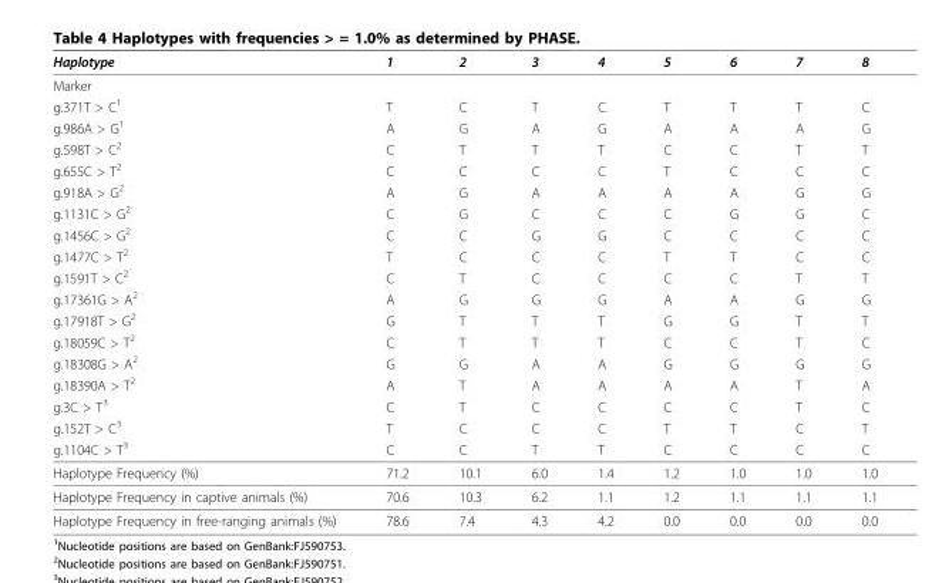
<table><thead><tr><td>Haplotype</td><td>1</td><td>2</td><td>3</td><td>4</td><td>5</td><td>6</td><td>7</td><td>8</td></tr></thead><tbody><tr><td colspan="9">Marker</td></tr><tr><td>g.371T &gt; C<sup>1</sup></td><td>T</td><td>C</td><td>T</td><td>C</td><td>T</td><td>T</td><td>T</td><td>C</td></tr><tr><td>g.986A &gt; G<sup>1</sup></td><td>A</td><td>G</td><td>A</td><td>G</td><td>A</td><td>A</td><td>A</td><td>G</td></tr><tr><td>g.598T &gt; C<sup>2</sup></td><td>C</td><td>T</td><td>T</td><td>T</td><td>C</td><td>C</td><td>T</td><td>T</td></tr><tr><td>g.655C &gt; T<sup>2</sup></td><td>C</td><td>C</td><td>C</td><td>C</td><td>T</td><td>C</td><td>C</td><td>C</td></tr><tr><td>g.918A &gt; G<sup>2</sup></td><td>A</td><td>G</td><td>A</td><td>A</td><td>A</td><td>A</td><td>G</td><td>G</td></tr><tr><td>g.1131C &gt; G<sup>2</sup></td><td>C</td><td>G</td><td>C</td><td>C</td><td>C</td><td>G</td><td>G</td><td>C</td></tr><tr><td>g.1456C &gt; G<sup>2</sup></td><td>C</td><td>C</td><td>G</td><td>G</td><td>C</td><td>C</td><td>C</td><td>C</td></tr><tr><td>g.1477C &gt; T<sup>2</sup></td><td>T</td><td>C</td><td>C</td><td>C</td><td>T</td><td>T</td><td>C</td><td>C</td></tr><tr><td>g.1591T &gt; C<sup>2</sup></td><td>C</td><td>T</td><td>C</td><td>C</td><td>C</td><td>C</td><td>T</td><td>T</td></tr><tr><td>g.17361G &gt; A<sup>2</sup></td><td>A</td><td>G</td><td>G</td><td>G</td><td>A</td><td>A</td><td>G</td><td>G</td></tr><tr><td>g.17918T &gt; G<sup>2</sup></td><td>G</td><td>T</td><td>T</td><td>T</td><td>G</td><td>G</td><td>T</td><td>T</td></tr><tr><td>g.18059C &gt; T<sup>2</sup></td><td>C</td><td>T</td><td>T</td><td>T</td><td>C</td><td>C</td><td>T</td><td>C</td></tr><tr><td>g.18308G &gt; A<sup>2</sup></td><td>G</td><td>G</td><td>A</td><td>A</td><td>G</td><td>G</td><td>G</td><td>G</td></tr><tr><td>g.18390A &gt; T<sup>2</sup></td><td>A</td><td>T</td><td>A</td><td>A</td><td>A</td><td>A</td><td>T</td><td>A</td></tr><tr><td>g.3C &gt; T<sup>3</sup></td><td>C</td><td>T</td><td>C</td><td>C</td><td>C</td><td>C</td><td>T</td><td>C</td></tr><tr><td>g.152T &gt; C<sup>3</sup></td><td>T</td><td>C</td><td>C</td><td>C</td><td>T</td><td>T</td><td>C</td><td>T</td></tr><tr><td>g.1104C &gt; T<sup>3</sup></td><td>C</td><td>C</td><td>T</td><td>T</td><td>C</td><td>C</td><td>C</td><td>C</td></tr><tr><td>Haplotype Frequency (%)</td><td>71.2</td><td>10.1</td><td>6.0</td><td>1.4</td><td>1.2</td><td>1.0</td><td>1.0</td><td>1.0</td></tr><tr><td>Haplotype Frequency in captive animals (%)</td><td>70.6</td><td>10.3</td><td>6.2</td><td>1.1</td><td>1.2</td><td>1.1</td><td>1.1</td><td>1.1</td></tr><tr><td>Haplotype Frequency in free-ranging animals (%)</td><td>78.6</td><td>7.4</td><td>4.3</td><td>4.2</td><td>0.0</td><td>0.0</td><td>0.0</td><td>0.0</td></tr></tbody></table>